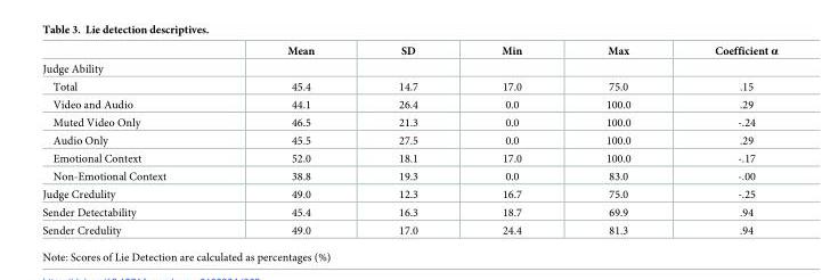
<table><thead><tr><td></td><td>Mean</td><td>SD</td><td>Min</td><td>Max</td><td>Coefficient α</td></tr></thead><tbody><tr><td colspan="6">Judge Ability</td></tr><tr><td>Total</td><td>45.4</td><td>14.7</td><td>17.0</td><td>75.0</td><td>.15</td></tr><tr><td>Video and Audio</td><td>44.1</td><td>26.4</td><td>0.0</td><td>100.0</td><td>.29</td></tr><tr><td>Muted Video Only</td><td>46.5</td><td>21.3</td><td>0.0</td><td>100.0</td><td>-.24</td></tr><tr><td>Audio Only</td><td>45.5</td><td>27.5</td><td>0.0</td><td>100.0</td><td>.29</td></tr><tr><td>Emotional Context</td><td>52.0</td><td>18.1</td><td>17.0</td><td>100.0</td><td>-.17</td></tr><tr><td>Non-Emotional Context</td><td>38.8</td><td>19.3</td><td>0.0</td><td>83.0</td><td>-.00</td></tr><tr><td>Judge Credulity</td><td>49.0</td><td>12.3</td><td>16.7</td><td>75.0</td><td>-.25</td></tr><tr><td>Sender Detectability</td><td>45.4</td><td>16.3</td><td>18.7</td><td>69.9</td><td>.94</td></tr><tr><td>Sender Credulity</td><td>49.0</td><td>17.0</td><td>24.4</td><td>81.3</td><td>.94</td></tr></tbody></table>